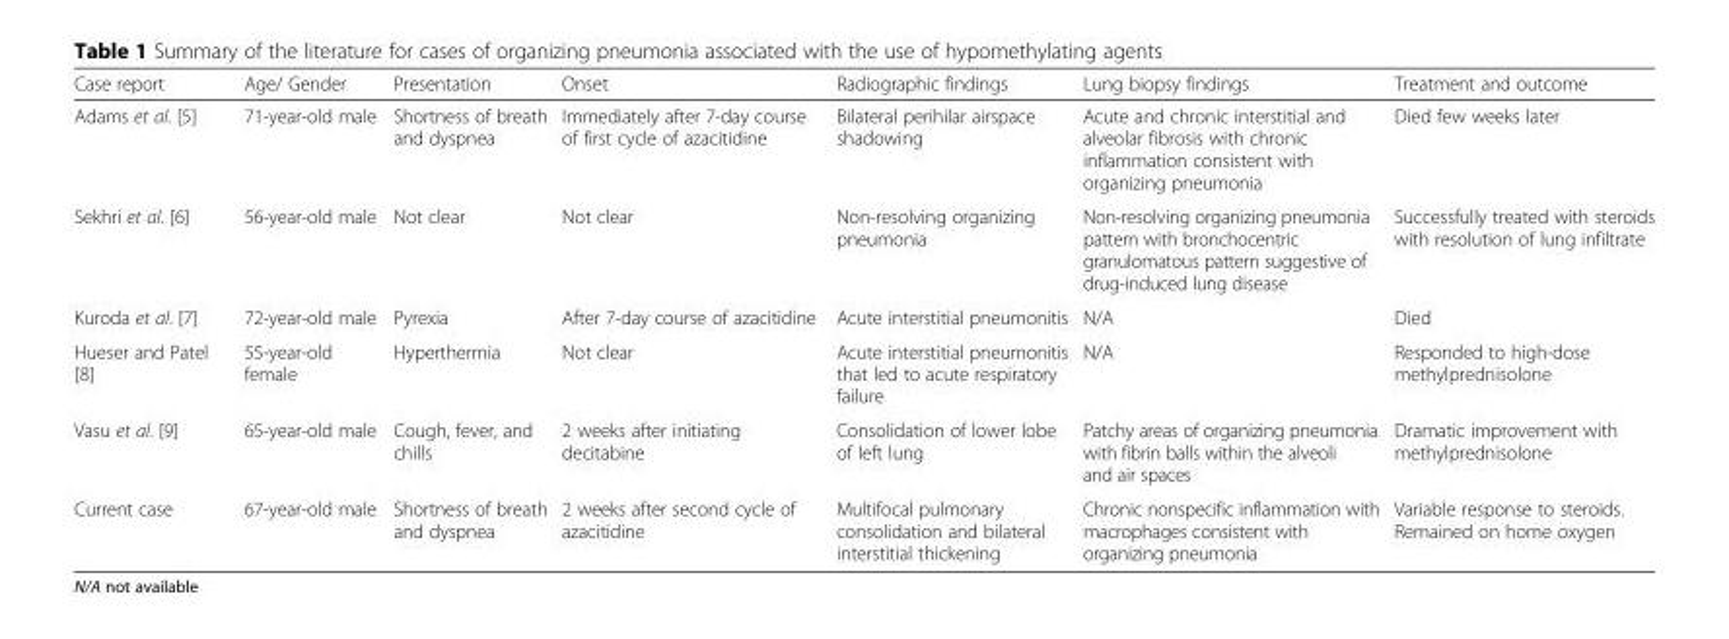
<table><thead><tr><td>Case report</td><td>Age/ Gender</td><td>Presentation</td><td>Onset</td><td>Radiographic findings</td><td>Lung biopsy findings</td><td>Treatment and outcome</td></tr></thead><tbody><tr><td>Adams et al. [5]</td><td>71-year-old male</td><td>Shortness of breath and dyspnea</td><td>Immediately after 7-day course of first cycle of azacitidine</td><td>Bilateral perihilar airspace shadowing</td><td>Acute and chronic interstitial and alveolar fibrosis with chronic inflammation consistent with organizing pneumonia</td><td>Died few weeks later</td></tr><tr><td>Sekhri et al. [6]</td><td>56-year-old male</td><td>Not clear</td><td>Not clear</td><td>Non-resolving organizing pneumonia</td><td>Non-resolving organizing pneumonia pattern with bronchocentric granulomatous pattern suggestive of drug-induced lung disease</td><td>Successfully treated with steroids with resolution of lung infiltrate</td></tr><tr><td>Kuroda et al. [7]</td><td>72-year-old male</td><td>Pyrexia</td><td>After 7-day course of azacitidine</td><td>Acute interstitial pneumonitis</td><td>N/A</td><td>Died</td></tr><tr><td>Hueser and Patel [8]</td><td>55-year-old female</td><td>Hyperthermia</td><td>Not clear</td><td>Acute interstitial pneumonitis that led to acute respiratory failure</td><td>N/A</td><td>Responded to high-dose methylprednisolone</td></tr><tr><td>Vasu et al. [9]</td><td>65-year-old male</td><td>Cough, fever, and chills</td><td>2 weeks after initiating decitabine</td><td>Consolidation of lower lobe of left lung</td><td>Patchy areas of organizing pneumonia with fibrin balls within the alveoli and air spaces</td><td>Dramatic improvement with methylprednisolone</td></tr><tr><td>Current case</td><td>67-year-old male</td><td>Shortness of breath and dyspnea</td><td>2 weeks after second cycle of azacitidine</td><td>Multifocal pulmonary consolidation and bilateral interstitial thickening</td><td>Chronic nonspecific inflammation with macrophages consistent with organizing pneumonia</td><td>Variable response to steroids. Remained on home oxygen</td></tr></tbody></table>